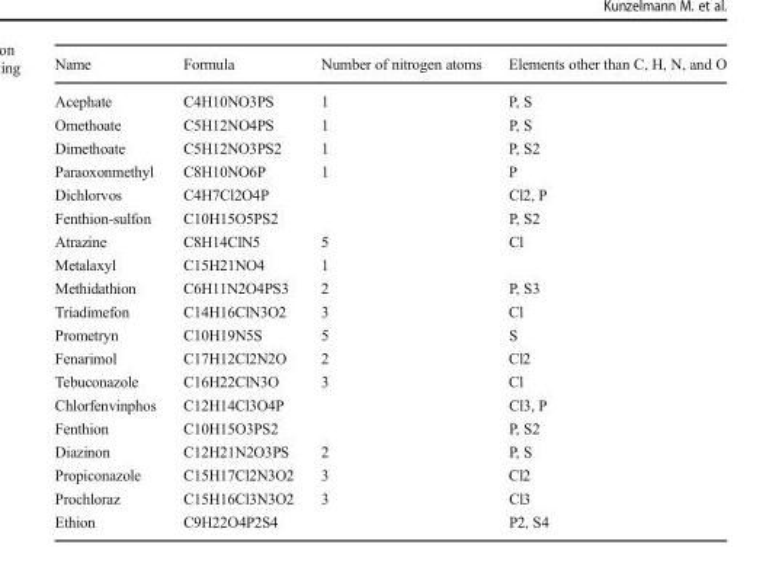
<table><thead><tr><td>Name</td><td>Formula</td><td>Number of nitrogen atoms</td><td>Elements other than C, H, N, and O</td></tr></thead><tbody><tr><td>Acephate</td><td>C4H10NO3PS</td><td>1</td><td>P, S</td></tr><tr><td>Omethoate</td><td>C5H12NO4PS</td><td>1</td><td>P, S</td></tr><tr><td>Dimethoate</td><td>C5H12NO3PS2</td><td>1</td><td>P, S2</td></tr><tr><td>Paraoxonmethyl</td><td>C8H10NO6P</td><td>1</td><td>P</td></tr><tr><td>Dichlorvos</td><td>C4H7Cl2O4P</td><td></td><td>Cl2, P</td></tr><tr><td>Fenthion-sulfon</td><td>C10H15O5PS2</td><td></td><td>P, S2</td></tr><tr><td>Atrazine</td><td>C8H14ClN5</td><td>5</td><td>Cl</td></tr><tr><td>Metalaxyl</td><td>C15H21NO4</td><td>1</td><td></td></tr><tr><td>Methidathion</td><td>C6H11N2O4PS3</td><td>2</td><td>P, S3</td></tr><tr><td>Triadimefon</td><td>C14H16ClN3O2</td><td>3</td><td>Cl</td></tr><tr><td>Prometryn</td><td>C10H19N5S</td><td>5</td><td>S</td></tr><tr><td>Fenarimol</td><td>C17H12Cl2N2O</td><td>2</td><td>Cl2</td></tr><tr><td>Tebuconazole</td><td>C16H22ClN3O</td><td>3</td><td>Cl</td></tr><tr><td>Chlorfenvinphos</td><td>C12H14Cl3O4P</td><td></td><td>Cl3, P</td></tr><tr><td>Fenthion</td><td>C10H15O3PS2</td><td></td><td>P, S2</td></tr><tr><td>Diazinon</td><td>C12H21N2O3PS</td><td>2</td><td>P, S</td></tr><tr><td>Propiconazole</td><td>C15H17Cl2N3O2</td><td>3</td><td>Cl2</td></tr><tr><td>Prochloraz</td><td>C15H16Cl3N3O2</td><td>3</td><td>Cl3</td></tr><tr><td>Ethion</td><td>C9H22O4P2S4</td><td></td><td>P2, S4</td></tr></tbody></table>